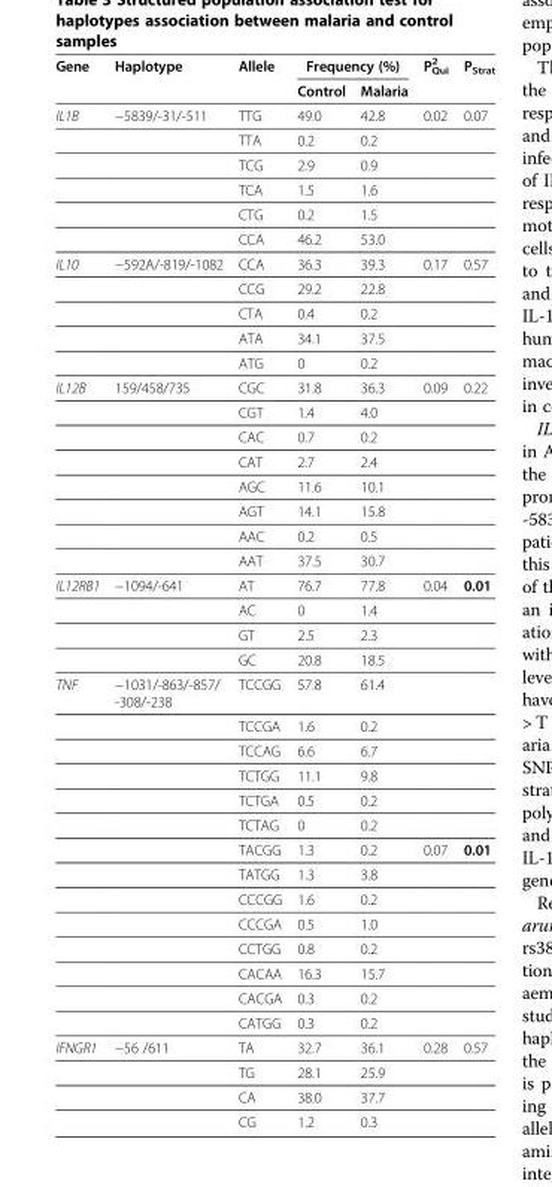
<table><thead><tr><td rowspan="2">Gene</td><td rowspan="2">Haplotype</td><td rowspan="2">Allele</td><td colspan="2">Frequency (%)</td><td rowspan="2">P<sub>Qui</sub> <sup>2</sup></td><td rowspan="2">P<sub>Strat</sub></td></tr><tr><td>Control</td><td>Malaria</td></tr></thead><tbody><tr><td rowspan="6">IL1B</td><td>−5839/-31/-511</td><td>TTG</td><td>49.0</td><td>42.8</td><td>0.02</td><td>0.07</td></tr><tr><td></td><td>TTA</td><td>0.2</td><td>0.2</td><td></td><td></td></tr><tr><td></td><td>TCG</td><td>2.9</td><td>0.9</td><td></td><td></td></tr><tr><td></td><td>TCA</td><td>1.5</td><td>1.6</td><td></td><td></td></tr><tr><td></td><td>CTG</td><td>0.2</td><td>1.5</td><td></td><td></td></tr><tr><td></td><td>CCA</td><td>46.2</td><td>53.0</td><td></td><td></td></tr><tr><td rowspan="5">IL10</td><td>−592A/-819/-1082</td><td>CCA</td><td>36.3</td><td>39.3</td><td>0.17</td><td>0.57</td></tr><tr><td></td><td>CCG</td><td>29.2</td><td>22.8</td><td></td><td></td></tr><tr><td></td><td>CTA</td><td>0.4</td><td>0.2</td><td></td><td></td></tr><tr><td></td><td>ATA</td><td>34.1</td><td>37.5</td><td></td><td></td></tr><tr><td></td><td>ATG</td><td>0</td><td>0.2</td><td></td><td></td></tr><tr><td rowspan="8">IL12B</td><td>159/458/735</td><td>CGC</td><td>31.8</td><td>36.3</td><td>0.09</td><td>0.22</td></tr><tr><td></td><td>CGT</td><td>1.4</td><td>4.0</td><td></td><td></td></tr><tr><td></td><td>CAC</td><td>0.7</td><td>0.2</td><td></td><td></td></tr><tr><td></td><td>CAT</td><td>2.7</td><td>2.4</td><td></td><td></td></tr><tr><td></td><td>AGC</td><td>11.6</td><td>10.1</td><td></td><td></td></tr><tr><td></td><td>AGT</td><td>14.1</td><td>15.8</td><td></td><td></td></tr><tr><td></td><td>AAC</td><td>0.2</td><td>0.5</td><td></td><td></td></tr><tr><td></td><td>AAT</td><td>37.5</td><td>30.7</td><td></td><td></td></tr><tr><td rowspan="4">IL12RB1</td><td>−1094/-641</td><td>AT</td><td>76.7</td><td>77.8</td><td>0.04</td><td>0.01</td></tr><tr><td></td><td>AC</td><td>0</td><td>1.4</td><td></td><td></td></tr><tr><td></td><td>GT</td><td>2.5</td><td>2.3</td><td></td><td></td></tr><tr><td></td><td>GC</td><td>20.8</td><td>18.5</td><td></td><td></td></tr><tr><td rowspan="14">TNF</td><td>−1031/-863/-857/ -308/-238</td><td>TCCGG</td><td>57.8</td><td>61.4</td><td></td><td></td></tr><tr><td></td><td>TCCGA</td><td>1.6</td><td>0.2</td><td></td><td></td></tr><tr><td></td><td>TCCAG</td><td>6.6</td><td>6.7</td><td></td><td></td></tr><tr><td></td><td>TCTGG</td><td>11.1</td><td>9.8</td><td></td><td></td></tr><tr><td></td><td>TCTGA</td><td>0.5</td><td>0.2</td><td></td><td></td></tr><tr><td></td><td>TCTAG</td><td>0</td><td>0.2</td><td></td><td></td></tr><tr><td></td><td>TACGG</td><td>1.3</td><td>0.2</td><td>0.07</td><td>0.01</td></tr><tr><td></td><td>TATGG</td><td>1.3</td><td>3.8</td><td></td><td></td></tr><tr><td></td><td>CCCGG</td><td>1.6</td><td>0.2</td><td></td><td></td></tr><tr><td></td><td>CCCGA</td><td>0.5</td><td>1.0</td><td></td><td></td></tr><tr><td></td><td>CCTGG</td><td>0.8</td><td>0.2</td><td></td><td></td></tr><tr><td></td><td>CACAA</td><td>16.3</td><td>15.7</td><td></td><td></td></tr><tr><td></td><td>CACGA</td><td>0.3</td><td>0.2</td><td></td><td></td></tr><tr><td></td><td>CATGG</td><td>0.3</td><td>0.2</td><td></td><td></td></tr><tr><td rowspan="4">IFNGR1</td><td>−56 /611</td><td>TA</td><td>32.7</td><td>36.1</td><td>0.28</td><td>0.57</td></tr><tr><td></td><td>TG</td><td>28.1</td><td>25.9</td><td></td><td></td></tr><tr><td></td><td>CA</td><td>38.0</td><td>37.7</td><td></td><td></td></tr><tr><td></td><td>CG</td><td>1.2</td><td>0.3</td><td></td><td></td></tr></tbody></table>